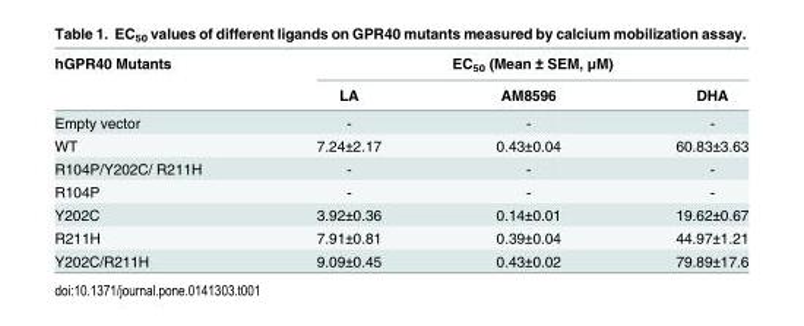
<table><thead><tr><td rowspan="2">hGPR40 Mutants</td><td colspan="3">EC<sub>50</sub> (Mean ± SEM, μM)</td></tr><tr><td>LA</td><td>AM8596</td><td>DHA</td></tr></thead><tbody><tr><td>Empty vector</td><td>-</td><td>-</td><td>-</td></tr><tr><td>WT</td><td>7.24±2.17</td><td>0.43±0.04</td><td>60.83±3.63</td></tr><tr><td>R104P/Y202C/ R211H</td><td>-</td><td>-</td><td>-</td></tr><tr><td>R104P</td><td>-</td><td>-</td><td>-</td></tr><tr><td>Y202C</td><td>3.92±0.36</td><td>0.14±0.01</td><td>19.62±0.67</td></tr><tr><td>R211H</td><td>7.91±0.81</td><td>0.39±0.04</td><td>44.97±1.21</td></tr><tr><td>Y202C/R211H</td><td>9.09±0.45</td><td>0.43±0.02</td><td>79.89±17.6</td></tr></tbody></table>